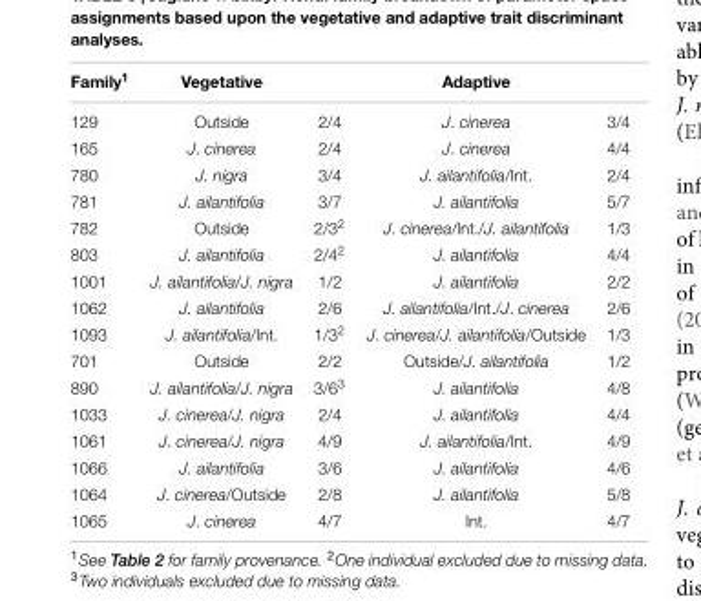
<table><thead><tr><td>Family<sup>1</sup></td><td>Vegetative</td><td></td><td>Adaptive</td><td></td></tr></thead><tbody><tr><td>129</td><td>Outside</td><td>2/4</td><td>J. cinerea</td><td>3/4</td></tr><tr><td>165</td><td>J. cinerea</td><td>2/4</td><td>J. cinerea</td><td>4/4</td></tr><tr><td>780</td><td>J. nigra</td><td>3/4</td><td>J. ailantifolia/Int.</td><td>2/4</td></tr><tr><td>781</td><td>J. ailantifolia</td><td>3/7</td><td>J. ailantifolia</td><td>5/7</td></tr><tr><td>782</td><td>Outside</td><td>2/3<sup>2</sup></td><td>J. cinerea/Int./J. ailantifolia</td><td>1/3</td></tr><tr><td>803</td><td>J. ailantifolia</td><td>2/4<sup>2</sup></td><td>J. ailantifolia</td><td>4/4</td></tr><tr><td>1001</td><td>J. ailantifolia/J. nigra</td><td>1/2</td><td>J. ailantifolia</td><td>2/2</td></tr><tr><td>1062</td><td>J. ailantifolia</td><td>2/6</td><td>J. ailantifolia/Int./J. cinerea</td><td>2/6</td></tr><tr><td>1093</td><td>J. ailantifolia/Int.</td><td>1/3<sup>2</sup></td><td>J. cinerea/J. ailantifolia/Outside</td><td>1/3</td></tr><tr><td>701</td><td>Outside</td><td>2/2</td><td>Outside/J. ailantifolia</td><td>1/2</td></tr><tr><td>890</td><td>J. ailantifolia/J. nigra</td><td>3/6<sup>3</sup></td><td>J. ailantifolia</td><td>4/8</td></tr><tr><td>1033</td><td>J. cinerea/J. nigra</td><td>2/4</td><td>J. ailantifolia</td><td>4/4</td></tr><tr><td>1061</td><td>J. cinerea/J. nigra</td><td>4/9</td><td>J. ailantifolia/Int.</td><td>4/9</td></tr><tr><td>1066</td><td>J. ailantifolia</td><td>3/6</td><td>J. ailantifolia</td><td>4/6</td></tr><tr><td>1064</td><td>J. cinerea/Outside</td><td>2/8</td><td>J. ailantifolia</td><td>5/8</td></tr><tr><td>1065</td><td>J. cinerea</td><td>4/7</td><td>Int.</td><td>4/7</td></tr></tbody></table>